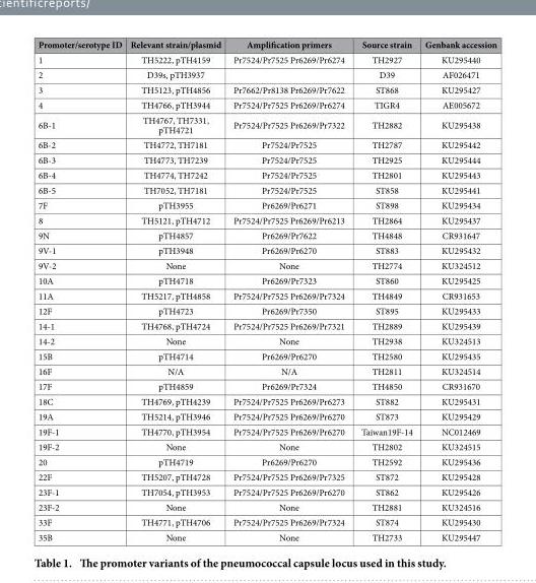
<table><thead><tr><td>Promoter/serotype ID</td><td>Relevant strain/plasmid</td><td>Amplification primers</td><td>Source strain</td><td>Genbank accession</td></tr></thead><tbody><tr><td>1</td><td>TH5222, pTH4159</td><td>Pr7524/Pr7525 Pr6269/Pr6274</td><td>TH2927</td><td>KU295440</td></tr><tr><td>2</td><td>D39s, pTH3937</td><td></td><td>D39</td><td>AF026471</td></tr><tr><td>3</td><td>TH5123, pTH4856</td><td>Pr7662/Pr8138 Pr6269/Pr7622</td><td>ST868</td><td>KU295427</td></tr><tr><td>4</td><td>TH4766, pTH3944</td><td>Pr7524/Pr7525 Pr6269/Pr6274</td><td>TIGR4</td><td>AE005672</td></tr><tr><td>6B-1</td><td>TH4767, TH7331, pTH4721</td><td>Pr7524/Pr7525 Pr6269/Pr7322</td><td>TH2882</td><td>KU295438</td></tr><tr><td>6B-2</td><td>TH4772, TH7181</td><td>Pr7524/Pr7525</td><td>TH2787</td><td>KU295442</td></tr><tr><td>6B-3</td><td>TH4773, TH7239</td><td>Pr7524/Pr7525</td><td>TH2925</td><td>KU295444</td></tr><tr><td>6B-4</td><td>TH4774, TH7242</td><td>Pr7524/Pr7525</td><td>TH2801</td><td>KU295443</td></tr><tr><td>6B-5</td><td>TH7052, TH7181</td><td>Pr7524/Pr7525</td><td>ST858</td><td>KU295441</td></tr><tr><td>7F</td><td>pTH3955</td><td>Pr6269/Pr6271</td><td>ST898</td><td>KU295434</td></tr><tr><td>8</td><td>TH5121, pTH4712</td><td>Pr7524/Pr7525 Pr6269/Pr6213</td><td>TH2864</td><td>KU295437</td></tr><tr><td>9N</td><td>pTH4857</td><td>Pr6269/Pr7622</td><td>TH4848</td><td>CR931647</td></tr><tr><td>9V-1</td><td>pTH3948</td><td>Pr6269/Pr6270</td><td>ST883</td><td>KU295432</td></tr><tr><td>9V-2</td><td>None</td><td>None</td><td>TH2774</td><td>KU324512</td></tr><tr><td>10A</td><td>pTH4718</td><td>Pr6269/Pr7323</td><td>ST860</td><td>KU295425</td></tr><tr><td>11A</td><td>TH5217, pTH4858</td><td>Pr7524/Pr7525 Pr6269/Pr7324</td><td>TH4849</td><td>CR931653</td></tr><tr><td>12F</td><td>pTH4723</td><td>Pr6269/Pr7350</td><td>ST895</td><td>KU295433</td></tr><tr><td>14-1</td><td>TH4768, pTH4724</td><td>Pr7524/Pr7525 Pr6269/Pr7321</td><td>TH2889</td><td>KU295439</td></tr><tr><td>14-2</td><td>None</td><td>None</td><td>TH2938</td><td>KU324513</td></tr><tr><td>15B</td><td>pTH4714</td><td>Pr6269/Pr6270</td><td>TH2580</td><td>KU295435</td></tr><tr><td>16F</td><td>N/A</td><td>N/A</td><td>TH2811</td><td>KU324514</td></tr><tr><td>17F</td><td>pTH4859</td><td>Pr6269/Pr7324</td><td>TH4850</td><td>CR931670</td></tr><tr><td>18C</td><td>TH4769, pTH4239</td><td>Pr7524/Pr7525 Pr6269/Pr6273</td><td>ST882</td><td>KU295431</td></tr><tr><td>19A</td><td>TH5214, pTH3946</td><td>Pr7524/Pr7525 Pr6269/Pr6270</td><td>ST873</td><td>KU295429</td></tr><tr><td>19F-1</td><td>TH4770, pTH3954</td><td>Pr7524/Pr7525 Pr6269/Pr6270</td><td>Taiwan19F-14</td><td>NC012469</td></tr><tr><td>19F-2</td><td>None</td><td>None</td><td>TH2802</td><td>KU324515</td></tr><tr><td>20</td><td>pTH4719</td><td>Pr6269/Pr6270</td><td>TH2592</td><td>KU295436</td></tr><tr><td>22F</td><td>TH5207, pTH4728</td><td>Pr7524/Pr7525 Pr6269/Pr7325</td><td>ST872</td><td>KU295428</td></tr><tr><td>23F-1</td><td>TH7054, pTH3953</td><td>Pr7524/Pr7525 Pr6269/Pr6270</td><td>ST862</td><td>KU295426</td></tr><tr><td>23F-2</td><td>None</td><td>None</td><td>TH2881</td><td>KU324516</td></tr><tr><td>33F</td><td>TH4771, pTH4706</td><td>Pr7524/Pr7525 Pr6269/Pr7324</td><td>ST874</td><td>KU295430</td></tr><tr><td>35B</td><td>None</td><td>None</td><td>TH2733</td><td>KU295447</td></tr></tbody></table>